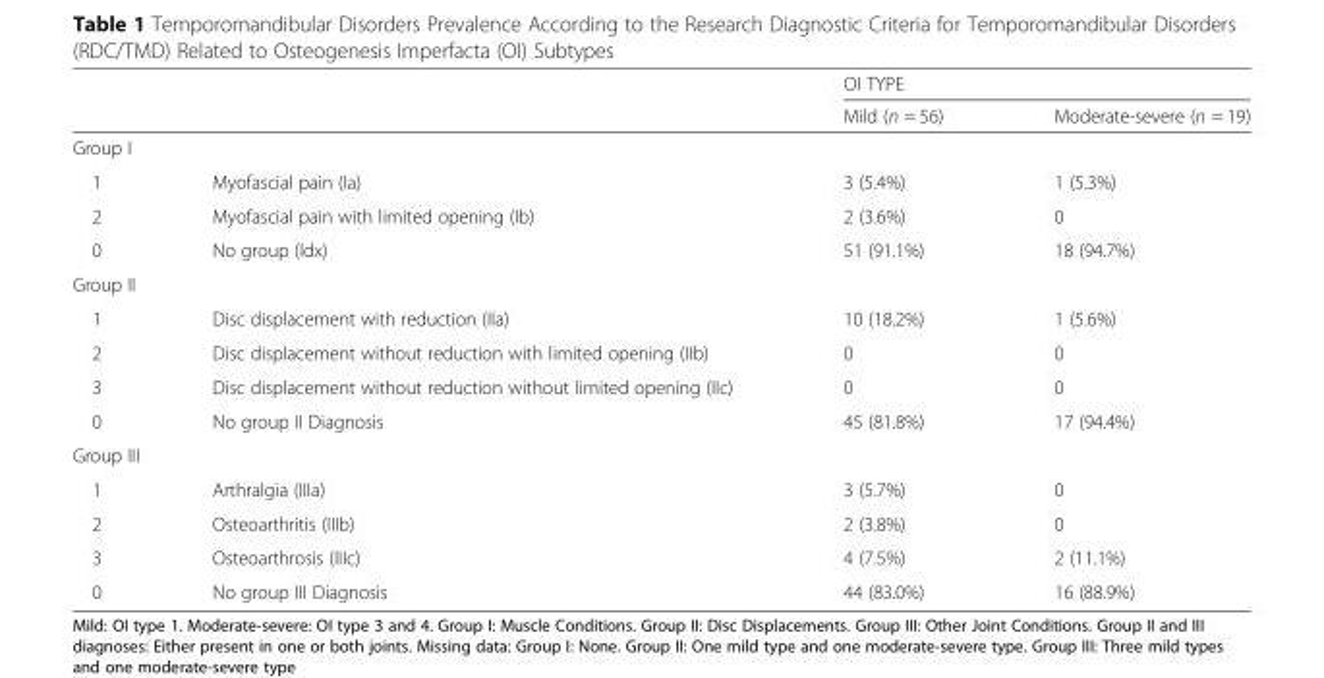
<table><thead><tr><td rowspan="2"></td><td rowspan="2"></td><td colspan="2">OI TYPE</td></tr><tr><td>Mild (n = 56)</td><td>Moderate-severe (n = 19)</td></tr></thead><tbody><tr><td colspan="4">Group I</td></tr><tr><td>1</td><td>Myofascial pain (Ia)</td><td>3 (5.4%)</td><td>1 (5.3%)</td></tr><tr><td>2</td><td>Myofascial pain with limited opening (Ib)</td><td>2 (3.6%)</td><td>0</td></tr><tr><td>0</td><td>No group (Idx)</td><td>51 (91.1%)</td><td>18 (94.7%)</td></tr><tr><td colspan="4">Group II</td></tr><tr><td>1</td><td>Disc displacement with reduction (IIa)</td><td>10 (18.2%)</td><td>1 (5.6%)</td></tr><tr><td>2</td><td>Disc displacement without reduction with limited opening (IIb)</td><td>0</td><td>0</td></tr><tr><td>3</td><td>Disc displacement without reduction without limited opening (IIc)</td><td>0</td><td>0</td></tr><tr><td>0</td><td>No group II Diagnosis</td><td>45 (81.8%)</td><td>17 (94.4%)</td></tr><tr><td colspan="4">Group III</td></tr><tr><td>1</td><td>Arthralgia (IIIa)</td><td>3 (5.7%)</td><td>0</td></tr><tr><td>2</td><td>Osteoarthritis (IIIb)</td><td>2 (3.8%)</td><td>0</td></tr><tr><td>3</td><td>Osteoarthrosis (IIIc)</td><td>4 (7.5%)</td><td>2 (11.1%)</td></tr><tr><td>0</td><td>No group III Diagnosis</td><td>44 (83.0%)</td><td>16 (88.9%)</td></tr></tbody></table>